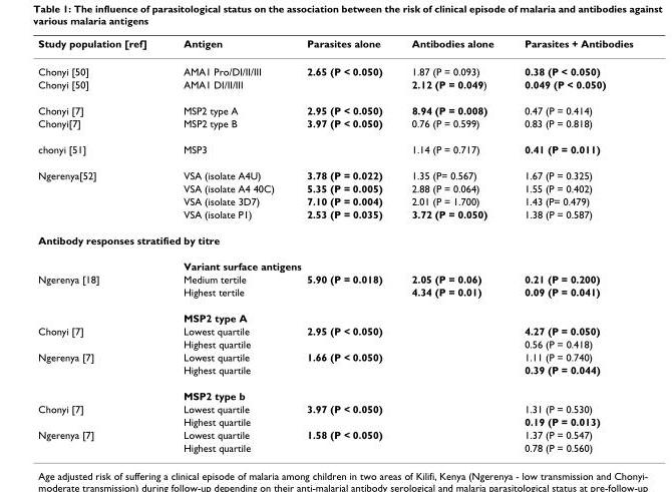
<table><thead><tr><td>Study population [ref]</td><td>Antigen</td><td>Parasites alone</td><td>Antibodies alone</td><td>Parasites + Antibodies</td></tr></thead><tbody><tr><td>Chonyi [50]</td><td>AMA1 Pro/DI/II/III</td><td>2.65 (P &lt; 0.050)</td><td>1.87 (P = 0.093)</td><td>0.38 (P &lt; 0.050)</td></tr><tr><td>Chonyi [50]</td><td>AMA1 DI/II/III</td><td></td><td>2.12 (P = 0.049)</td><td>0.049 (P &lt; 0.050)</td></tr><tr><td>Chonyi [7]</td><td>MSP2 type A</td><td>2.95 (P &lt; 0.050)</td><td>8.94 (P = 0.008)</td><td>0.47 (P = 0.414)</td></tr><tr><td>Chonyi[7]</td><td>MSP2 type B</td><td>3.97 (P &lt; 0.050)</td><td>0.76 (P = 0.599)</td><td>0.83 (P = 0.818)</td></tr><tr><td>chonyi [51]</td><td>MSP3</td><td></td><td>1.14 (P = 0.717)</td><td>0.41 (P = 0.011)</td></tr><tr><td rowspan="4">Ngerenya[52]</td><td>VSA (isolate A4U)</td><td>3.78 (P = 0.022)</td><td>1.35 (P= 0.567)</td><td>1.67 (P = 0.325)</td></tr><tr><td>VSA (isolate A4 40C)</td><td>5.35 (P = 0.005)</td><td>2.88 (P = 0.064)</td><td>1.55 (P = 0.402)</td></tr><tr><td>VSA (isolate 3D7)</td><td>7.10 (P = 0.004)</td><td>2.01 (P = 1.700)</td><td>1.43 (P= 0.479)</td></tr><tr><td>VSA (isolate P1)</td><td>2.53 (P = 0.035)</td><td>3.72 (P = 0.050)</td><td>1.38 (P = 0.587)</td></tr><tr><td colspan="5">Antibody responses stratified by titre</td></tr><tr><td></td><td colspan="4">Variant surface antigens</td></tr><tr><td rowspan="3">Ngerenya [18]</td><td>Medium tertile</td><td>5.90 (P = 0.018)</td><td>2.05 (P = 0.06)</td><td>0.21 (P = 0.200)</td></tr><tr><td>Highest tertile</td><td></td><td>4.34 (P = 0.01)</td><td>0.09 (P = 0.041)</td></tr><tr><td colspan="4">MSP2 type A</td></tr><tr><td rowspan="2">Chonyi [7]</td><td>Lowest quartile</td><td>2.95 (P &lt; 0.050)</td><td></td><td>4.27 (P = 0.050)</td></tr><tr><td>Highest quartile</td><td></td><td></td><td>0.56 (P = 0.418)</td></tr><tr><td rowspan="3">Ngerenya [7]</td><td>Lowest quartile</td><td>1.66 (P &lt; 0.050)</td><td></td><td>1.11 (P = 0.740)</td></tr><tr><td>Highest quartile</td><td></td><td></td><td>0.39 (P = 0.044)</td></tr><tr><td colspan="4">MSP2 type b</td></tr><tr><td rowspan="2">Chonyi [7]</td><td>Lowest quartile</td><td>3.97 (P &lt; 0.050)</td><td></td><td>1.31 (P = 0.530)</td></tr><tr><td>Highest quartile</td><td></td><td></td><td>0.19 (P = 0.013)</td></tr><tr><td rowspan="2">Ngerenya [7]</td><td>Lowest quartile</td><td>1.58 (P &lt; 0.050)</td><td></td><td>1.37 (P = 0.547)</td></tr><tr><td>Highest quartile</td><td></td><td></td><td>0.78 (P = 0.560)</td></tr></tbody></table>